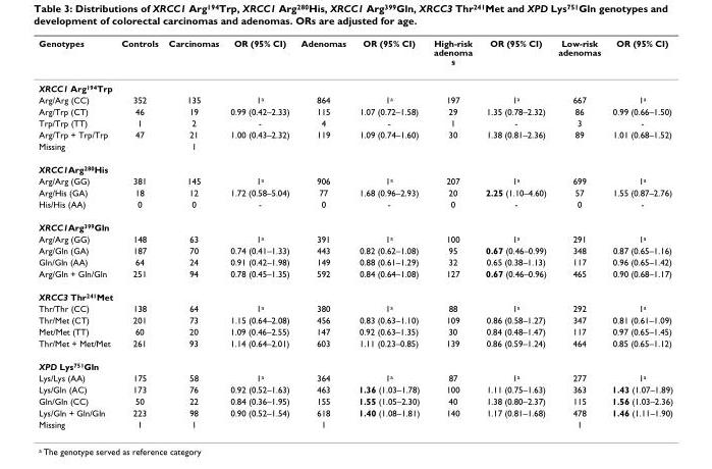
<table><thead><tr><td>Genotypes</td><td>Controls</td><td>Carcinomas</td><td>OR (95% CI)</td><td>Adenomas</td><td>OR (95% CI)</td><td>High-risk adenoma s</td><td>OR (95% CI)</td><td>Low-risk adenomas</td><td>OR (95% CI)</td></tr></thead><tbody><tr><td colspan="10">XRCC1 Arg194Trp</td></tr><tr><td>Arg/Arg (CC)</td><td>352</td><td>135</td><td>1a</td><td>864</td><td>1a</td><td>197</td><td>1a</td><td>667</td><td>1a</td></tr><tr><td>Arg/Trp (CT)</td><td>46</td><td>19</td><td>0.99 (0.42–2.33)</td><td>115</td><td>1.07 (0.72–1.58)</td><td>29</td><td>1.35 (0.78–2.32)</td><td>86</td><td>0.99 (0.66–1.50)</td></tr><tr><td>Trp/Trp (TT)</td><td>1</td><td>2</td><td>-</td><td>4</td><td>-</td><td>1</td><td>-</td><td>3</td><td>-</td></tr><tr><td>Arg/Trp + Trp/Trp</td><td>47</td><td>21</td><td>1.00 (0.43–2.32)</td><td>119</td><td>1.09 (0.74–1.60)</td><td>30</td><td>1.38 (0.81–2.36)</td><td>89</td><td>1.01 (0.68–1.52)</td></tr><tr><td>Missing</td><td></td><td>1</td><td></td><td></td><td></td><td></td><td></td><td></td><td></td></tr><tr><td colspan="10">XRCC1Arg280His</td></tr><tr><td>Arg/Arg (GG)</td><td>381</td><td>145</td><td>1a</td><td>906</td><td>1a</td><td>207</td><td>1a</td><td>699</td><td>1a</td></tr><tr><td>Arg/His (GA)</td><td>18</td><td>12</td><td>1.72 (0.58–5.04)</td><td>77</td><td>1.68 (0.96–2.93)</td><td>20</td><td>2.25 (1.10–4.60)</td><td>57</td><td>1.55 (0.87–2.76)</td></tr><tr><td>His/His (AA)</td><td>0</td><td>0</td><td>-</td><td>0</td><td>-</td><td>0</td><td>-</td><td>0</td><td>-</td></tr><tr><td colspan="10">XRCC1Arg399Gln</td></tr><tr><td>Arg/Arg (GG)</td><td>148</td><td>63</td><td>1a</td><td>391</td><td>1a</td><td>100</td><td>1a</td><td>291</td><td>1a</td></tr><tr><td>Arg/Gln (GA)</td><td>187</td><td>70</td><td>0.74 (0.41–1.33)</td><td>443</td><td>0.82 (0.62–1.08)</td><td>95</td><td>0.67 (0.46–0.99)</td><td>348</td><td>0.87 (0.65–1.16)</td></tr><tr><td>Gln/Gln (AA)</td><td>64</td><td>24</td><td>0.91 (0.42–1.98)</td><td>149</td><td>0.88 (0.61–1.29)</td><td>32</td><td>0.65 (0.38–1.13)</td><td>117</td><td>0.96 (0.65–1.42)</td></tr><tr><td>Arg/Gln + Gln/Gln</td><td>251</td><td>94</td><td>0.78 (0.45–1.35)</td><td>592</td><td>0.84 (0.64–1.08)</td><td>127</td><td>0.67 (0.46–0.96)</td><td>465</td><td>0.90 (0.68–1.17)</td></tr><tr><td colspan="10">XRCC3 Thr241Met</td></tr><tr><td>Thr/Thr (CC)</td><td>138</td><td>64</td><td>1a</td><td>380</td><td>1a</td><td>88</td><td>1a</td><td>292</td><td>1a</td></tr><tr><td>Thr/Met (CT)</td><td>201</td><td>73</td><td>1.15 (0.64–2.08)</td><td>456</td><td>0.83 (0.63–1.10)</td><td>109</td><td>0.86 (0.58–1.27)</td><td>347</td><td>0.81 (0.61–1.09)</td></tr><tr><td>Met/Met (TT)</td><td>60</td><td>20</td><td>1.09 (0.46–2.55)</td><td>147</td><td>0.92 (0.63–1.35)</td><td>30</td><td>0.84 (0.48–1.47)</td><td>117</td><td>0.97 (0.65–1.45)</td></tr><tr><td>Thr/Met + Met/Met</td><td>261</td><td>93</td><td>1.14 (0.64–2.01)</td><td>603</td><td>1.11 (0.23–0.85)</td><td>139</td><td>0.86 (0.59–1.24)</td><td>464</td><td>0.85 (0.65–1.12)</td></tr><tr><td colspan="10">XPD Lys751Gln</td></tr><tr><td>Lys/Lys (AA)</td><td>175</td><td>58</td><td>1a</td><td>364</td><td>1a</td><td>87</td><td>1a</td><td>277</td><td>1a</td></tr><tr><td>Lys/Gln (AC)</td><td>173</td><td>76</td><td>0.92 (0.52–1.63)</td><td>463</td><td>1.36 (1.03–1.78)</td><td>100</td><td>1.11 (0.75–1.63)</td><td>363</td><td>1.43 (1.07–1.89)</td></tr><tr><td>Gln/Gln (CC)</td><td>50</td><td>22</td><td>0.84 (0.36–1.95)</td><td>155</td><td>1.55 (1.05–2.30)</td><td>40</td><td>1.38 (0.80–2.37)</td><td>115</td><td>1.56 (1.03–2.36)</td></tr><tr><td>Lys/Gln + Gln/Gln</td><td>223</td><td>98</td><td>0.90 (0.52–1.54)</td><td>618</td><td>1.40 (1.08–1.81)</td><td>140</td><td>1.17 (0.81–1.68)</td><td>478</td><td>1.46 (1.11–1.90)</td></tr><tr><td>Missing</td><td>1</td><td>1</td><td></td><td>1</td><td></td><td></td><td></td><td>1</td><td></td></tr></tbody></table>